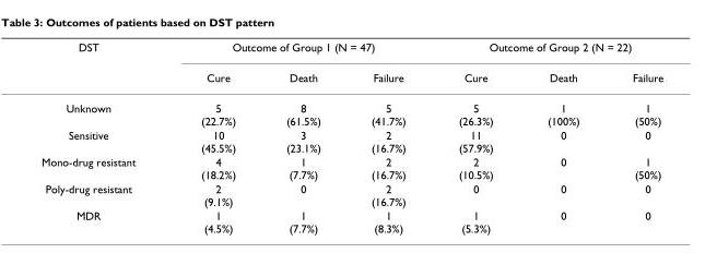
<table><thead><tr><td rowspan="2">DST</td><td colspan="3">Outcome of Group 1 (N = 47)</td><td colspan="3">Outcome of Group 2 (N = 22)</td></tr><tr><td>Cure</td><td>Death</td><td>Failure</td><td>Cure</td><td>Death</td><td>Failure</td></tr></thead><tbody><tr><td>Unknown</td><td>5 (22.7%)</td><td>8 (61.5%)</td><td>5 (41.7%)</td><td>5 (26.3%)</td><td>1 (100%)</td><td>1 (50%)</td></tr><tr><td>Sensitive</td><td>10 (45.5%)</td><td>3 (23.1%)</td><td>2 (16.7%)</td><td>11 (57.9%)</td><td>0</td><td>0</td></tr><tr><td>Mono-drug resistant</td><td>4 (18.2%)</td><td>1 (7.7%)</td><td>2 (16.7%)</td><td>2 (10.5%)</td><td>0</td><td>1 (50%)</td></tr><tr><td>Poly-drug resistant</td><td>2 (9.1%)</td><td>0</td><td>2 (16.7%)</td><td>0</td><td>0</td><td>0</td></tr><tr><td>MDR</td><td>1 (4.5%)</td><td>1 (7.7%)</td><td>1 (8.3%)</td><td>1 (5.3%)</td><td>0</td><td>0</td></tr></tbody></table>